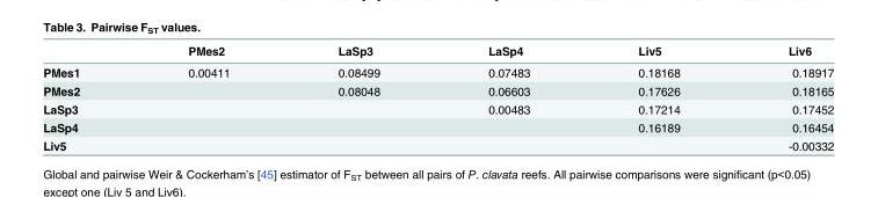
<table><thead><tr><td></td><td>PMes2</td><td>LaSp3</td><td>LaSp4</td><td>Liv5</td><td>Liv6</td></tr></thead><tbody><tr><td>PMes1</td><td>0.00411</td><td>0.08499</td><td>0.07483</td><td>0.18168</td><td>0.18917</td></tr><tr><td>PMes2</td><td></td><td>0.08048</td><td>0.06603</td><td>0.17626</td><td>0.18165</td></tr><tr><td>LaSp3</td><td></td><td></td><td>0.00483</td><td>0.17214</td><td>0.17452</td></tr><tr><td>LaSp4</td><td></td><td></td><td></td><td>0.16189</td><td>0.16454</td></tr><tr><td>Liv5</td><td></td><td></td><td></td><td></td><td>-0.00332</td></tr></tbody></table>